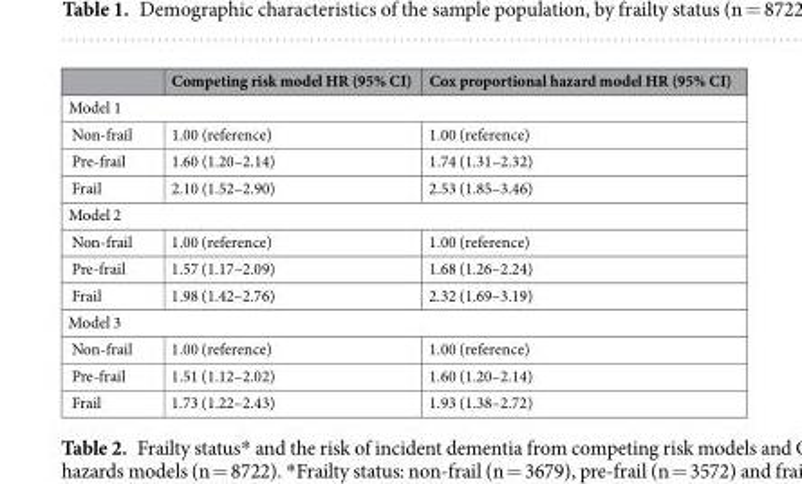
<table><thead><tr><td></td><td>Competing risk model HR (95% CI)</td><td>Cox proportional hazard model HR (95% CI)</td></tr></thead><tbody><tr><td colspan="3">Model 1</td></tr><tr><td>Non-frail</td><td>1.00 (reference)</td><td>1.00 (reference)</td></tr><tr><td>Pre-frail</td><td>1.60 (1.20–2.14)</td><td>1.74 (1.31–2.32)</td></tr><tr><td>Frail</td><td>2.10 (1.52–2.90)</td><td>2.53 (1.85–3.46)</td></tr><tr><td colspan="3">Model 2</td></tr><tr><td>Non-frail</td><td>1.00 (reference)</td><td>1.00 (reference)</td></tr><tr><td>Pre-frail</td><td>1.57 (1.17–2.09)</td><td>1.68 (1.26–2.24)</td></tr><tr><td>Frail</td><td>1.98 (1.42–2.76)</td><td>2.32 (1.69–3.19)</td></tr><tr><td colspan="3">Model 3</td></tr><tr><td>Non-frail</td><td>1.00 (reference)</td><td>1.00 (reference)</td></tr><tr><td>Pre-frail</td><td>1.51 (1.12–2.02)</td><td>1.60 (1.20–2.14)</td></tr><tr><td>Frail</td><td>1.73 (1.22–2.43)</td><td>1.93 (1.38–2.72)</td></tr></tbody></table>